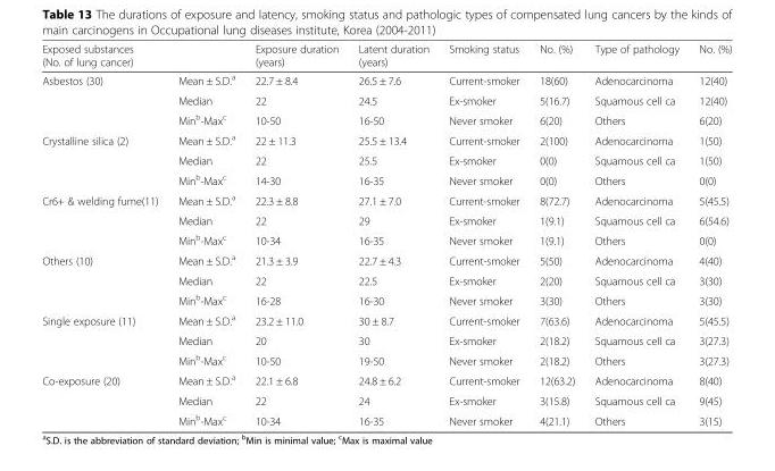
<table><thead><tr><td>Exposed substances (No. of lung cancer)</td><td></td><td>Exposure duration (years)</td><td>Latent duration (years)</td><td>Smoking status</td><td>No. (%)</td><td>Type of pathology</td><td>No. (%)</td></tr></thead><tbody><tr><td rowspan="3">Asbestos (30)</td><td>Mean ± S.D.<sup>a</sup></td><td>22.7 ± 8.4</td><td>26.5 ± 7.6</td><td>Current-smoker</td><td>18(60)</td><td>Adenocarcinoma</td><td>12(40)</td></tr><tr><td>Median</td><td>22</td><td>24.5</td><td>Ex-smoker</td><td>5(16.7)</td><td>Squamous cell ca</td><td>12(40)</td></tr><tr><td>Min<sup>b</sup>-Max<sup>c</sup></td><td>10-50</td><td>16-50</td><td>Never smoker</td><td>6(20)</td><td>Others</td><td>6(20)</td></tr><tr><td rowspan="3">Crystalline silica (2)</td><td>Mean ± S.D.<sup>a</sup></td><td>22 ± 11.3</td><td>25.5 ± 13.4</td><td>Current-smoker</td><td>2(100)</td><td>Adenocarcinoma</td><td>1(50)</td></tr><tr><td>Median</td><td>22</td><td>25.5</td><td>Ex-smoker</td><td>0(0)</td><td>Squamous cell ca</td><td>1(50)</td></tr><tr><td>Min<sup>b</sup>-Max<sup>c</sup></td><td>14-30</td><td>16-35</td><td>Never smoker</td><td>0(0)</td><td>Others</td><td>0(0)</td></tr><tr><td rowspan="3">Cr6+ &amp; welding fume(11)</td><td>Mean ± S.D.<sup>a</sup></td><td>22.3 ± 8.8</td><td>27.1 ± 7.0</td><td>Current-smoker</td><td>8(72.7)</td><td>Adenocarcinoma</td><td>5(45.5)</td></tr><tr><td>Median</td><td>22</td><td>29</td><td>Ex-smoker</td><td>1(9.1)</td><td>Squamous cell ca</td><td>6(54.6)</td></tr><tr><td>Min<sup>b</sup>-Max<sup>c</sup></td><td>10-34</td><td>16-35</td><td>Never smoker</td><td>1(9.1)</td><td>Others</td><td>0(0)</td></tr><tr><td rowspan="3">Others (10)</td><td>Mean ± S.D.<sup>a</sup></td><td>21.3 ± 3.9</td><td>22.7 ± 4.3</td><td>Current-smoker</td><td>5(50)</td><td>Adenocarcinoma</td><td>4(40)</td></tr><tr><td>Median</td><td>22</td><td>22.5</td><td>Ex-smoker</td><td>2(20)</td><td>Squamous cell ca</td><td>3(30)</td></tr><tr><td>Min<sup>b</sup>-Max<sup>c</sup></td><td>16-28</td><td>16-30</td><td>Never smoker</td><td>3(30)</td><td>Others</td><td>3(30)</td></tr><tr><td rowspan="3">Single exposure (11)</td><td>Mean ± S.D.<sup>a</sup></td><td>23.2 ± 11.0</td><td>30 ± 8.7</td><td>Current-smoker</td><td>7(63.6)</td><td>Adenocarcinoma</td><td>5(45.5)</td></tr><tr><td>Median</td><td>20</td><td>30</td><td>Ex-smoker</td><td>2(18.2)</td><td>Squamous cell ca</td><td>3(27.3)</td></tr><tr><td>Min<sup>b</sup>-Max<sup>c</sup></td><td>10-50</td><td>19-50</td><td>Never smoker</td><td>2(18.2)</td><td>Others</td><td>3(27.3)</td></tr><tr><td rowspan="3">Co-exposure (20)</td><td>Mean ± S.D.<sup>a</sup></td><td>22.1 ± 6.8</td><td>24.8 ± 6.2</td><td>Current-smoker</td><td>12(63.2)</td><td>Adenocarcinoma</td><td>8(40)</td></tr><tr><td>Median</td><td>22</td><td>24</td><td>Ex-smoker</td><td>3(15.8)</td><td>Squamous cell ca</td><td>9(45)</td></tr><tr><td>Min<sup>b</sup>-Max<sup>c</sup></td><td>10-34</td><td>16-35</td><td>Never smoker</td><td>4(21.1)</td><td>Others</td><td>3(15)</td></tr></tbody></table>